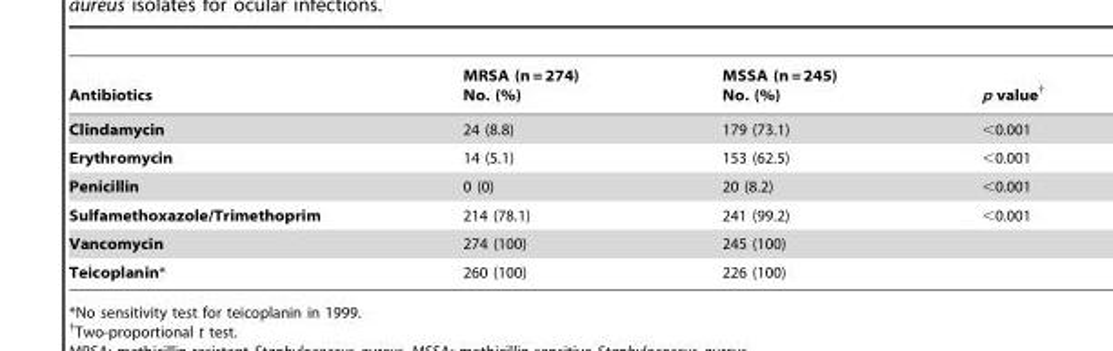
<table><thead><tr><td>Antibiotics</td><td>MRSA (n = 274) No. (%)</td><td>MSSA (n = 245) No. (%)</td><td>p value†</td></tr></thead><tbody><tr><td>Clindamycin</td><td>24 (8.8)</td><td>179 (73.1)</td><td>&lt;0.001</td></tr><tr><td>Erythromycin</td><td>14 (5.1)</td><td>153 (62.5)</td><td>&lt;0.001</td></tr><tr><td>Penicillin</td><td>0 (0)</td><td>20 (8.2)</td><td>&lt;0.001</td></tr><tr><td>Sulfamethoxazole/Trimethoprim</td><td>214 (78.1)</td><td>241 (99.2)</td><td>&lt;0.001</td></tr><tr><td>Vancomycin</td><td>274 (100)</td><td>245 (100)</td><td></td></tr><tr><td>Teicoplanin*</td><td>260 (100)</td><td>226 (100)</td><td></td></tr></tbody></table>